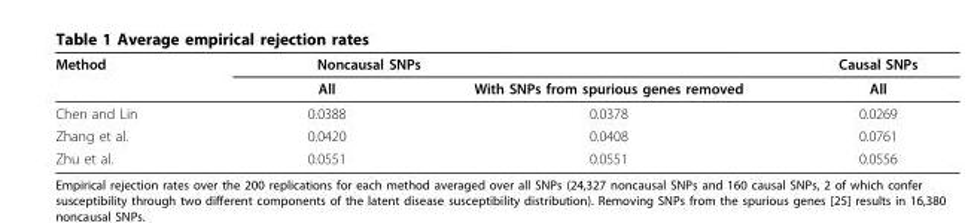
<table><thead><tr><td rowspan="2">Method</td><td rowspan="2">Noncausal SNPs All</td><td rowspan="2">With SNPs from spurious genes removed</td><td rowspan="2">Causal SNPs All</td></tr><tr></tr></thead><tbody><tr><td>Chen and Lin</td><td>0.0388</td><td>0.0378</td><td>0.0269</td></tr><tr><td>Zhang et al.</td><td>0.0420</td><td>0.0408</td><td>0.0761</td></tr><tr><td>Zhu et al.</td><td>0.0551</td><td>0.0551</td><td>0.0556</td></tr></tbody></table>